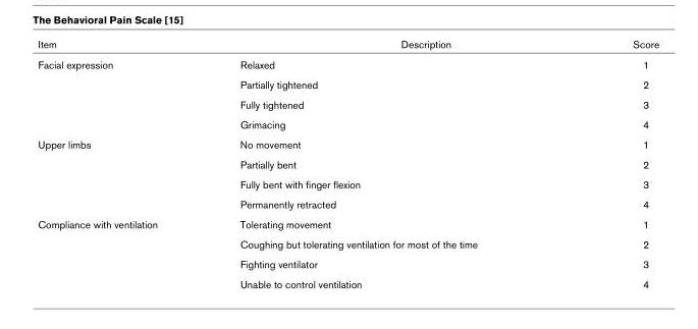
<table><thead><tr><td>Item</td><td>Description</td><td>Score</td></tr></thead><tbody><tr><td rowspan="4">Facial expression</td><td>Relaxed</td><td>1</td></tr><tr><td>Partially tightened</td><td>2</td></tr><tr><td>Fully tightened</td><td>3</td></tr><tr><td>Grimacing</td><td>4</td></tr><tr><td rowspan="4">Upper limbs</td><td>No movement</td><td>1</td></tr><tr><td>Partially bent</td><td>2</td></tr><tr><td>Fully bent with finger flexion</td><td>3</td></tr><tr><td>Permanently retracted</td><td>4</td></tr><tr><td rowspan="4">Compliance with ventilation</td><td>Tolerating movement</td><td>1</td></tr><tr><td>Coughing but tolerating ventilation for most of the time</td><td>2</td></tr><tr><td>Fighting ventilator</td><td>3</td></tr><tr><td>Unable to control ventilation</td><td>4</td></tr></tbody></table>